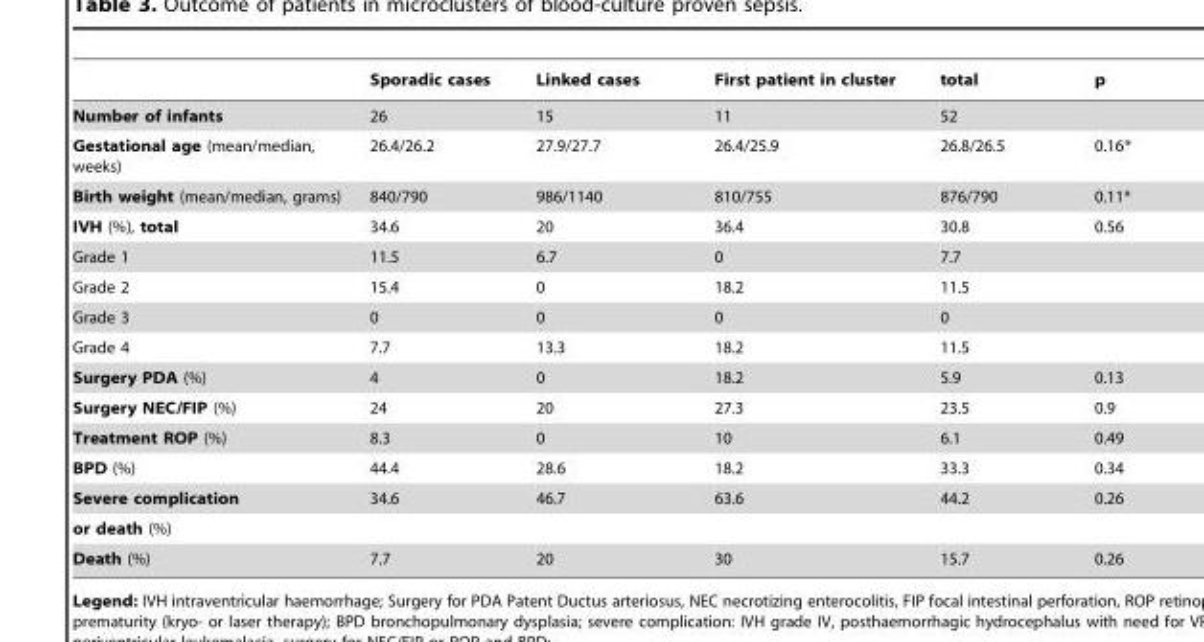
<table><thead><tr><td></td><td>Sporadic cases</td><td>Linked cases</td><td>First patient in cluster</td><td>total</td><td>p</td></tr></thead><tbody><tr><td>Number of infants</td><td>26</td><td>15</td><td>11</td><td>52</td><td></td></tr><tr><td>Gestational age (mean/median, weeks)</td><td>26.4/26.2</td><td>27.9/27.7</td><td>26.4/25.9</td><td>26.8/26.5</td><td>0.16*</td></tr><tr><td>Birth weight (mean/median, grams)</td><td>840/790</td><td>986/1140</td><td>810/755</td><td>876/790</td><td>0.11*</td></tr><tr><td>IVH (%), total</td><td>34.6</td><td>20</td><td>36.4</td><td>30.8</td><td>0.56</td></tr><tr><td>Grade 1</td><td>11.5</td><td>6.7</td><td>0</td><td>7.7</td><td></td></tr><tr><td>Grade 2</td><td>15.4</td><td>0</td><td>18.2</td><td>11.5</td><td></td></tr><tr><td>Grade 3</td><td>0</td><td>0</td><td>0</td><td>0</td><td></td></tr><tr><td>Grade 4</td><td>7.7</td><td>13.3</td><td>18.2</td><td>11.5</td><td></td></tr><tr><td>Surgery PDA (%)</td><td>4</td><td>0</td><td>18.2</td><td>5.9</td><td>0.13</td></tr><tr><td>Surgery NEC/FIP (%)</td><td>24</td><td>20</td><td>27.3</td><td>23.5</td><td>0.9</td></tr><tr><td>Treatment ROP (%)</td><td>8.3</td><td>0</td><td>10</td><td>6.1</td><td>0.49</td></tr><tr><td>BPD (%)</td><td>44.4</td><td>28.6</td><td>18.2</td><td>33.3</td><td>0.34</td></tr><tr><td>Severe complication</td><td>34.6</td><td>46.7</td><td>63.6</td><td>44.2</td><td>0.26</td></tr><tr><td colspan="6">or death (%)</td></tr><tr><td>Death (%)</td><td>7.7</td><td>20</td><td>30</td><td>15.7</td><td>0.26</td></tr></tbody></table>